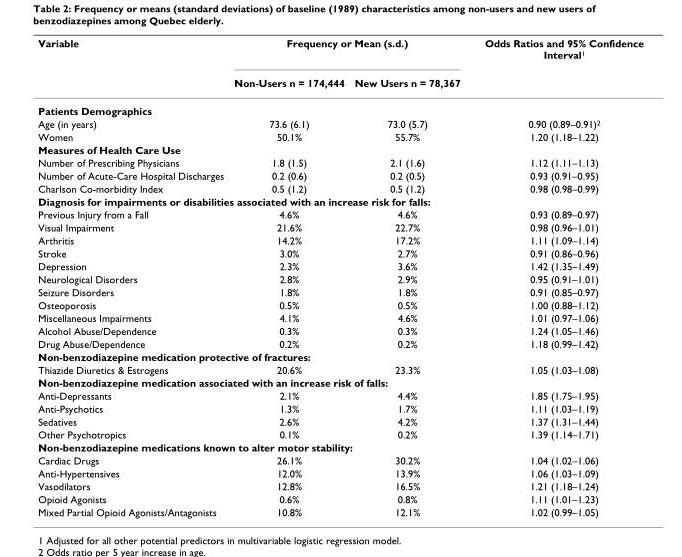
<table><thead><tr><td rowspan="2">Variable</td><td colspan="2">Frequency or Mean (s.d.)</td><td rowspan="2">Odds Ratios and 95% Confidence Interval<sup>1</sup></td></tr><tr><td>Non-Users n = 174,444</td><td>New Users n = 78,367</td></tr></thead><tbody><tr><td colspan="4">Patients Demographics</td></tr><tr><td>Age (in years)</td><td>73.6 (6.1)</td><td>73.0 (5.7)</td><td>0.90 (0.89–0.91)<sup>2</sup></td></tr><tr><td>Women</td><td>50.1%</td><td>55.7%</td><td>1.20 (1.18–1.22)</td></tr><tr><td colspan="4">Measures of Health Care Use</td></tr><tr><td>Number of Prescribing Physicians</td><td>1.8 (1.5)</td><td>2.1 (1.6)</td><td>1.12 (1.11–1.13)</td></tr><tr><td>Number of Acute-Care Hospital Discharges</td><td>0.2 (0.6)</td><td>0.2 (0.5)</td><td>0.93 (0.91–0.95)</td></tr><tr><td>Charlson Co-morbidity Index</td><td>0.5 (1.2)</td><td>0.5 (1.2)</td><td>0.98 (0.98–0.99)</td></tr><tr><td colspan="4">Diagnosis for impairments or disabilities associated with an increase risk for falls:</td></tr><tr><td>Previous Injury from a Fall</td><td>4.6%</td><td>4.6%</td><td>0.93 (0.89–0.97)</td></tr><tr><td>Visual Impairment</td><td>21.6%</td><td>22.7%</td><td>0.98 (0.96–1.01)</td></tr><tr><td>Arthritis</td><td>14.2%</td><td>17.2%</td><td>1.11 (1.09–1.14)</td></tr><tr><td>Stroke</td><td>3.0%</td><td>2.7%</td><td>0.91 (0.86–0.96)</td></tr><tr><td>Depression</td><td>2.3%</td><td>3.6%</td><td>1.42 (1.35–1.49)</td></tr><tr><td>Neurological Disorders</td><td>2.8%</td><td>2.9%</td><td>0.95 (0.91–1.01)</td></tr><tr><td>Seizure Disorders</td><td>1.8%</td><td>1.8%</td><td>0.91 (0.85–0.97)</td></tr><tr><td>Osteoporosis</td><td>0.5%</td><td>0.5%</td><td>1.00 (0.88–1.12)</td></tr><tr><td>Miscellaneous Impairments</td><td>4.1%</td><td>4.6%</td><td>1.01 (0.97–1.06)</td></tr><tr><td>Alcohol Abuse/Dependence</td><td>0.3%</td><td>0.3%</td><td>1.24 (1.05–1.46)</td></tr><tr><td>Drug Abuse/Dependence</td><td>0.2%</td><td>0.2%</td><td>1.18 (0.99–1.42)</td></tr><tr><td colspan="4">Non-benzodiazepine medication protective of fractures:</td></tr><tr><td>Thiazide Diuretics &amp; Estrogens</td><td>20.6%</td><td>23.3%</td><td>1.05 (1.03–1.08)</td></tr><tr><td colspan="4">Non-benzodiazepine medication associated with an increase risk of falls:</td></tr><tr><td>Anti-Depressants</td><td>2.1%</td><td>4.4%</td><td>1.85 (1.75–1.95)</td></tr><tr><td>Anti-Psychotics</td><td>1.3%</td><td>1.7%</td><td>1.11 (1.03–1.19)</td></tr><tr><td>Sedatives</td><td>2.6%</td><td>4.2%</td><td>1.37 (1.31–1.44)</td></tr><tr><td>Other Psychotropics</td><td>0.1%</td><td>0.2%</td><td>1.39 (1.14–1.71)</td></tr><tr><td colspan="4">Non-benzodiazepine medications known to alter motor stability:</td></tr><tr><td>Cardiac Drugs</td><td>26.1%</td><td>30.2%</td><td>1.04 (1.02–1.06)</td></tr><tr><td>Anti-Hypertensives</td><td>12.0%</td><td>13.9%</td><td>1.06 (1.03–1.09)</td></tr><tr><td>Vasodilators</td><td>12.8%</td><td>16.5%</td><td>1.21 (1.18–1.24)</td></tr><tr><td>Opioid Agonists</td><td>0.6%</td><td>0.8%</td><td>1.11 (1.01–1.23)</td></tr><tr><td>Mixed Partial Opioid Agonists/Antagonists</td><td>10.8%</td><td>12.1%</td><td>1.02 (0.99–1.05)</td></tr></tbody></table>